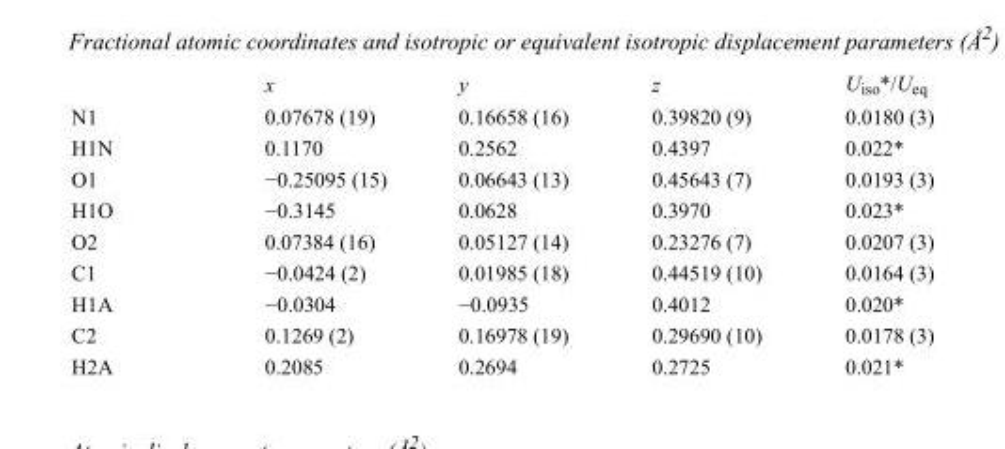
<table><thead><tr><td></td><td>x</td><td>y</td><td>z</td><td>U<sub>iso</sub>*/U<sub>eq</sub></td></tr></thead><tbody><tr><td>N1</td><td>0.07678 (19)</td><td>0.16658 (16)</td><td>0.39820 (9)</td><td>0.0180 (3)</td></tr><tr><td>H1N</td><td>0.1170</td><td>0.2562</td><td>0.4397</td><td>0.022*</td></tr><tr><td>O1</td><td>−0.25095 (15)</td><td>0.06643 (13)</td><td>0.45643 (7)</td><td>0.0193 (3)</td></tr><tr><td>H1O</td><td>−0.3145</td><td>0.0628</td><td>0.3970</td><td>0.023*</td></tr><tr><td>O2</td><td>0.07384 (16)</td><td>0.05127 (14)</td><td>0.23276 (7)</td><td>0.0207 (3)</td></tr><tr><td>C1</td><td>−0.0424 (2)</td><td>0.01985 (18)</td><td>0.44519 (10)</td><td>0.0164 (3)</td></tr><tr><td>H1A</td><td>−0.0304</td><td>−0.0935</td><td>0.4012</td><td>0.020*</td></tr><tr><td>C2</td><td>0.1269 (2)</td><td>0.16978 (19)</td><td>0.29690 (10)</td><td>0.0178 (3)</td></tr><tr><td>H2A</td><td>0.2085</td><td>0.2694</td><td>0.2725</td><td>0.021*</td></tr></tbody></table>